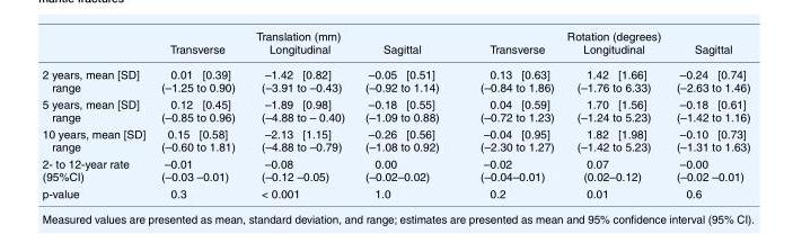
<table><thead><tr><td></td><td>Transverse</td><td>Longitudinal</td><td>Sagittal</td><td>Transverse</td><td>Longitudinal</td><td>Sagittal</td></tr></thead><tbody><tr><td>2 years, mean [SD] range</td><td>0.01 [0.39] (–1.25 to 0.90)</td><td>–1.42 [0.82] (–3.91 to –0.43)</td><td>–0.05 [0.51] (–0.92 to 1.14)</td><td>0.13 [0.63] (–0.84 to 1.86)</td><td>1.42 [1.66] (–1.76 to 6.33)</td><td>–0.24 [0.74] (–2.63 to 1.46)</td></tr><tr><td>5 years, mean [SD] range</td><td>0.12 [0.45] (–0.85 to 0.96)</td><td>–1.89 [0.98] (–4.88 to – 0.40)</td><td>–0.18 [0.55] (–1.09 to 0.88)</td><td>0.04 [0.59] (–0.72 to 1.23)</td><td>1.70 [1.56] (–1.24 to 5.23)</td><td>–0.18 [0.61] (–1.42 to 1.16)</td></tr><tr><td>10 years, mean [SD] range</td><td>0.15 [0.58] (–0.60 to 1.81)</td><td>–2.13 [1.15] (–4.88 to –0.79)</td><td>–0.26 [0.56] (–1.08 to 0.92)</td><td>–0.04 [0.95] (–2.30 to 1.27)</td><td>1.82 [1.98] (–1.42 to 5.23)</td><td>–0.10 [0.73] (–1.31 to 1.63)</td></tr><tr><td>2- to 12-year rate (95%CI)</td><td>–0.01 (–0.03 –0.01)</td><td>–0.08 (–0.12 –0.05)</td><td>0.00 (–0.02–0.02)</td><td>–0.02 (–0.04–0.01)</td><td>0.07 (0.02–0.12)</td><td>–0.00 (–0.02 –0.01)</td></tr><tr><td>p-value</td><td>0.3</td><td>&lt; 0.001</td><td>1.0</td><td>0.2</td><td>0.01</td><td>0.6</td></tr></tbody></table>